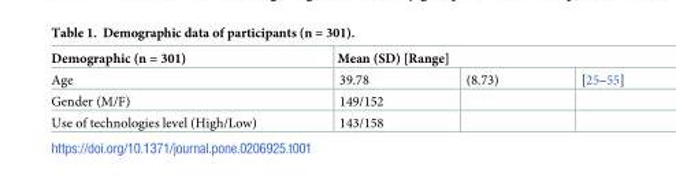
<table><thead><tr><td rowspan="2">Demographic (n = 301) Age</td><td colspan="3">Mean (SD) [Range]</td></tr><tr><td>39.78</td><td>(8.73)</td><td>[25–55]</td></tr></thead><tbody><tr><td>Gender (M/F)</td><td>149/152</td><td></td><td></td></tr><tr><td>Use of technologies level (High/Low)</td><td>143/158</td><td></td><td></td></tr></tbody></table>